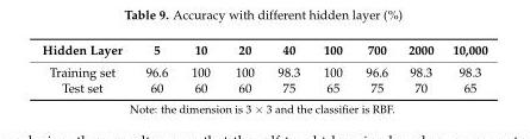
<table><thead><tr><td>Hidden Layer</td><td>5</td><td>10</td><td>20</td><td>40</td><td>100</td><td>700</td><td>2000</td><td>10,000</td></tr></thead><tbody><tr><td>Training set</td><td>96.6</td><td>100</td><td>100</td><td>98.3</td><td>100</td><td>96.6</td><td>98.3</td><td>98.3</td></tr><tr><td>Test set</td><td>60</td><td>60</td><td>60</td><td>75</td><td>65</td><td>75</td><td>70</td><td>65</td></tr></tbody></table>